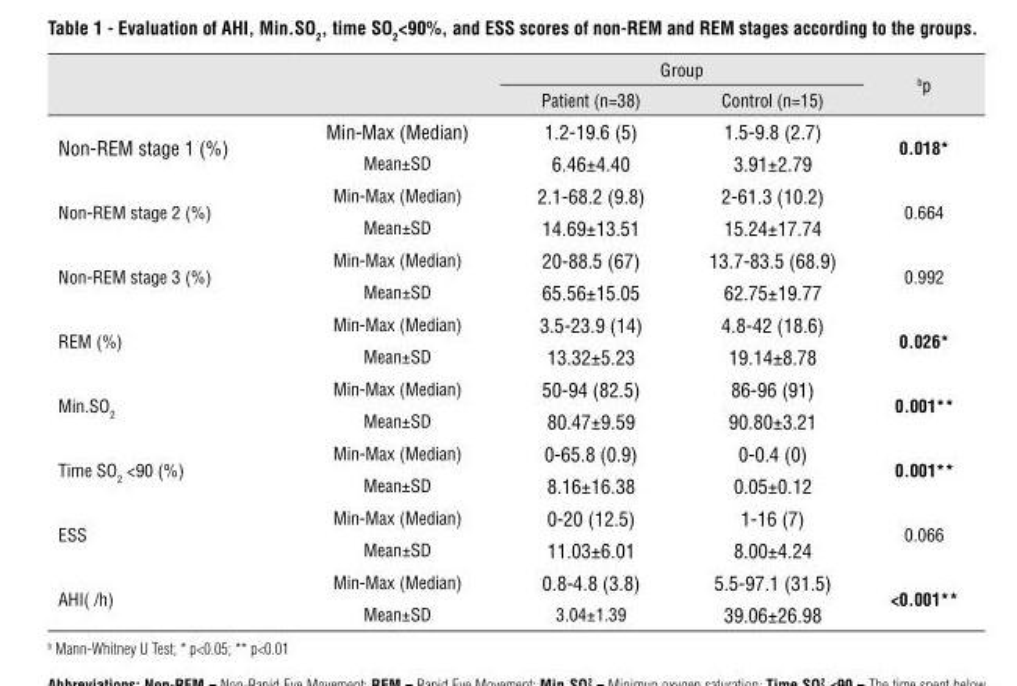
<table><thead><tr><td rowspan="2"></td><td rowspan="2"></td><td colspan="2">Group</td><td rowspan="2">bp</td></tr><tr><td>Patient (n=38)</td><td>Control (n=15)</td></tr></thead><tbody><tr><td rowspan="2">Non-REM stage 1 (%)</td><td>Min-Max (Median)</td><td>1.2-19.6 (5)</td><td>1.5-9.8 (2.7)</td><td rowspan="2">0.018*</td></tr><tr><td>Mean±SD</td><td>6.46±4.40</td><td>3.91±2.79</td></tr><tr><td rowspan="2">Non-REM stage 2 (%)</td><td>Min-Max (Median)</td><td>2.1-68.2 (9.8)</td><td>2-61.3 (10.2)</td><td rowspan="2">0.664</td></tr><tr><td>Mean±SD</td><td>14.69±13.51</td><td>15.24±17.74</td></tr><tr><td rowspan="2">Non-REM stage 3 (%)</td><td>Min-Max (Median)</td><td>20-88.5 (67)</td><td>13.7-83.5 (68.9)</td><td rowspan="2">0.992</td></tr><tr><td>Mean±SD</td><td>65.56±15.05</td><td>62.75±19.77</td></tr><tr><td rowspan="2">REM (%)</td><td>Min-Max (Median)</td><td>3.5-23.9 (14)</td><td>4.8-42 (18.6)</td><td rowspan="2">0.026*</td></tr><tr><td>Mean±SD</td><td>13.32±5.23</td><td>19.14±8.78</td></tr><tr><td rowspan="2">Min.SO<sub>2</sub></td><td>Min-Max (Median)</td><td>50-94 (82.5)</td><td>86-96 (91)</td><td rowspan="2">0.001**</td></tr><tr><td>Mean±SD</td><td>80.47±9.59</td><td>90.80±3.21</td></tr><tr><td rowspan="2">Time SO<sub>2</sub> &lt;90 (%)</td><td>Min-Max (Median)</td><td>0-65.8 (0.9)</td><td>0-0.4 (0)</td><td rowspan="2">0.001**</td></tr><tr><td>Mean±SD</td><td>8.16±16.38</td><td>0.05±0.12</td></tr><tr><td rowspan="2">ESS</td><td>Min-Max (Median)</td><td>0-20 (12.5)</td><td>1-16 (7)</td><td rowspan="2">0.066</td></tr><tr><td>Mean±SD</td><td>11.03±6.01</td><td>8.00±4.24</td></tr><tr><td rowspan="2">AHI( /h)</td><td>Min-Max (Median)</td><td>0.8-4.8 (3.8)</td><td>5.5-97.1 (31.5)</td><td rowspan="2">&lt;0.001**</td></tr><tr><td>Mean±SD</td><td>3.04±1.39</td><td>39.06±26.98</td></tr></tbody></table>